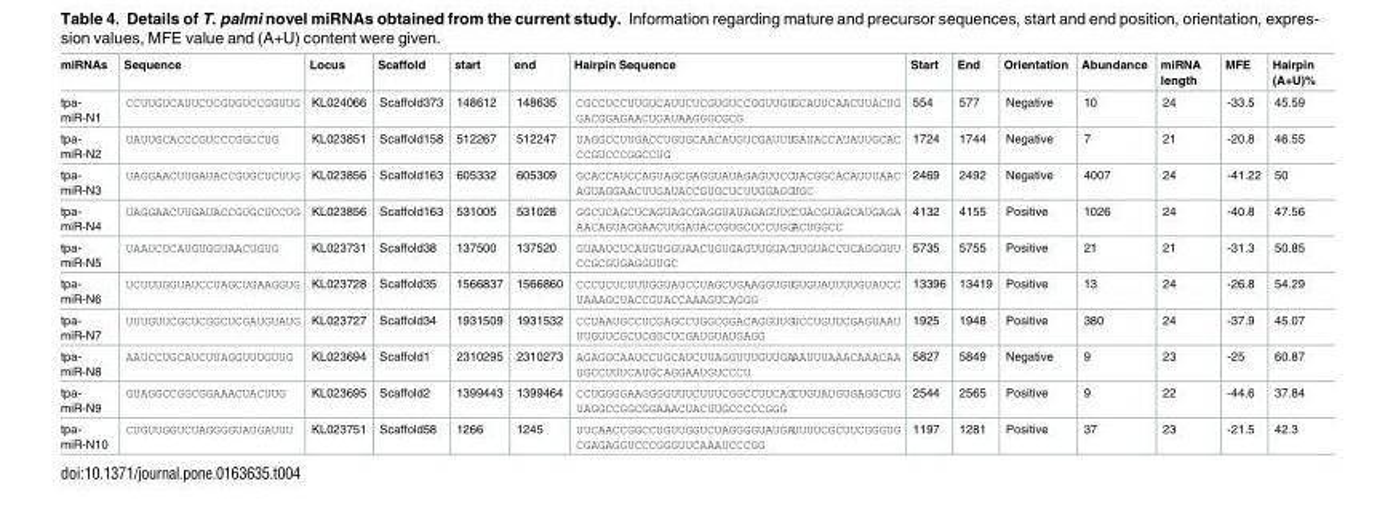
<table><thead><tr><td>miRNAs</td><td>Sequence</td><td>Locus</td><td>Scaffold</td><td>start</td><td>end</td><td>Hairpin Sequence</td><td>Start</td><td>End</td><td>Orientation</td><td>Abundance</td><td>miRNA length</td><td>MFE</td><td>Hairpin (A+U)%</td></tr></thead><tbody><tr><td>tpa- miR-N1</td><td>CCUUGUCAUUCUCGUGUCCGGUUG</td><td>KL024066</td><td>Scaffold373</td><td>148612</td><td>148635</td><td>CGCCUCCUUGUCAUUCUCGUGUCCGGUUGUGCAUUCAACUUACUG GACGGAGAACUGAUAAGGGCGCG</td><td>554</td><td>577</td><td>Negative</td><td>10</td><td>24</td><td>-33.5</td><td>45.59</td></tr><tr><td>tpa- miR-N2</td><td>UAUUGCACCCGUCCCGGCCUG</td><td>KL023851</td><td>Scaffold158</td><td>512267</td><td>512247</td><td>UAGGCCUUGACCUGUGCAACAUGUCGAUUUGAUACCAUAUUGCAC CCGUCCCGGCCUG</td><td>1724</td><td>1744</td><td>Negative</td><td>7</td><td>21</td><td>-20.8</td><td>46.55</td></tr><tr><td>tpa- miR-N3</td><td>UAGGAACUUGAUACCGUGCUCUUG</td><td>KL023856</td><td>Scaffold163</td><td>605332</td><td>605309</td><td>GCACCAUCCAGUAGCGAGGUAUAGAGUUCCUACGGCACAUUUAAC AGUAGGAACUUGAUACCGUGCUCUUGGAGGUGC</td><td>2469</td><td>2492</td><td>Negative</td><td>4007</td><td>24</td><td>-41.22</td><td>50</td></tr><tr><td>tpa- miR-N4</td><td>UAGGAACUUGAUACCGUGCUCCUG</td><td>KL023856</td><td>Scaffold163</td><td>531005</td><td>531028</td><td>GGCUCAGCUCAGUAGCGAGGUAUAGAGUUCCUACGUAGCAUGAGA AACAGUAGGAACUUGAUACCGUGCUCCUGGACUGGCC</td><td>4132</td><td>4155</td><td>Positive</td><td>1026</td><td>24</td><td>-40.8</td><td>47.56</td></tr><tr><td>tpa- miR-N5</td><td>UAAUCUCAUGUGGUAACUGUG</td><td>KL023731</td><td>Scaffold38</td><td>137500</td><td>137520</td><td>GUAAUCUCAUGUGGUAACUGUGAGUUGUACUUGUACCUCAGGGUU CCGCGUGAGGUUGC</td><td>5735</td><td>5755</td><td>Positive</td><td>21</td><td>21</td><td>-31.3</td><td>50.85</td></tr><tr><td>tpa- miR-N6</td><td>UCUUUGGUAUCCUAGCUGAAGGUG</td><td>KL023728</td><td>Scaffold35</td><td>1566837</td><td>1566860</td><td>CCCUCUCUUUGGUAUCCUAGCUGAAGGUGUGUGUAUUUUGUAUCC UAAAGCUACCGUACCAAAGUCAGGG</td><td>13396</td><td>13419</td><td>Positive</td><td>13</td><td>24</td><td>-26.8</td><td>54.29</td></tr><tr><td>tpa- miR-N7</td><td>UUUGUUCGCUCGGCUCGAUGUAUG</td><td>KL023727</td><td>Scaffold34</td><td>1931509</td><td>1931532</td><td>CCUAAUGCCUCGAGCCUGGCGGACAGGUUGUCCUGUUCGAGUAAU UUGUUCGCUCGGCUCGAUGUAUGAGG</td><td>1925</td><td>1948</td><td>Positive</td><td>380</td><td>24</td><td>-37.9</td><td>45.07</td></tr><tr><td>tpa- miR-N8</td><td>AAUCCUGCAUCUUAGGUUUGUUG</td><td>KL023694</td><td>Scaffold1</td><td>2310295</td><td>2310273</td><td>AGAGGCAAUCCUGCAUCUUAGGUUUGUUGAAAUUUAAACAAACAA UGCCUUUCAUGCAGGAAUGUCCCU</td><td>5827</td><td>5849</td><td>Negative</td><td>9</td><td>23</td><td>-25</td><td>60.87</td></tr><tr><td>tpa- miR-N9</td><td>GUAGGCCGGCGGAAACUACUUG</td><td>KL023695</td><td>Scaffold2</td><td>1399443</td><td>1399464</td><td>CCUGGGGAAGGGGUUUCUUUCGGCCUUCAGCUGUAUGUGAGGCUG UAGGCCGGCGGAAACUACUUGCCCCCGGG</td><td>2544</td><td>2565</td><td>Positive</td><td>9</td><td>22</td><td>-44.6</td><td>37.84</td></tr><tr><td>tpa- miR-N10</td><td>CUGUUGGUCUAGGGGUAUGAUUU</td><td>KL023751</td><td>Scaffold58</td><td>1266</td><td>1245</td><td>UUCAACCGGCCUGUUGGUCUAGGGGUAUGAUUUUCGCUUCGGGUG CGAGAGGUCCCGGGUUCAAAUCCCGG</td><td>1197</td><td>1281</td><td>Positive</td><td>37</td><td>23</td><td>-21.5</td><td>42.3</td></tr></tbody></table>